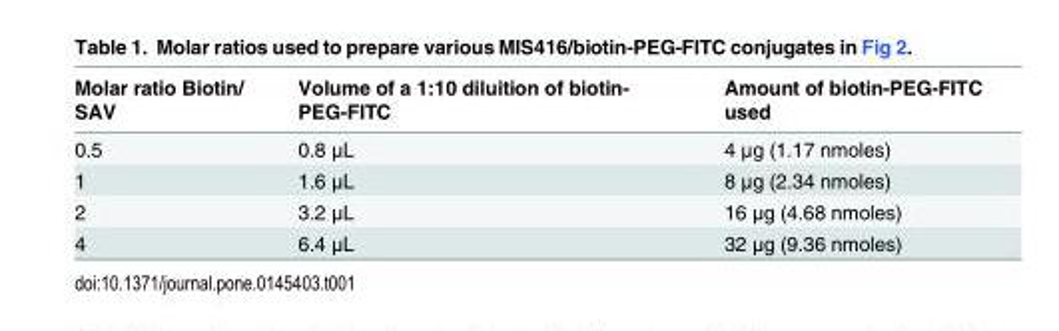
<table><thead><tr><td>Molar ratio Biotin/ SAV</td><td>Volume of a 1:10 diluition of biotin- PEG-FITC</td><td>Amount of biotin-PEG-FITC used</td></tr></thead><tbody><tr><td>0.5</td><td>0.8 μL</td><td>4 μg (1.17 nmoles)</td></tr><tr><td>1</td><td>1.6 μL</td><td>8 μg (2.34 nmoles)</td></tr><tr><td>2</td><td>3.2 μL</td><td>16 μg (4.68 nmoles)</td></tr><tr><td>4</td><td>6.4 μL</td><td>32 μg (9.36 nmoles)</td></tr></tbody></table>